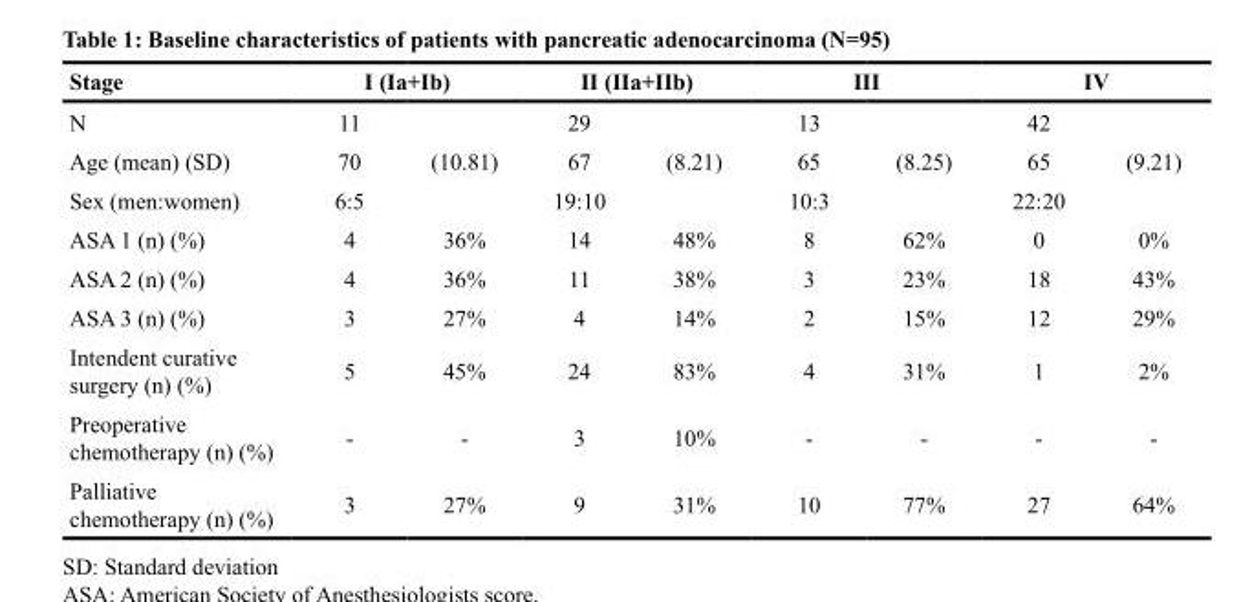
<table><thead><tr><td rowspan="2">Stage N</td><td colspan="2">I (Ia+Ib)</td><td colspan="2">II (IIa+IIb)</td><td colspan="2">III</td><td colspan="2">IV</td></tr><tr><td>11</td><td></td><td>29</td><td></td><td>13</td><td></td><td>42</td><td></td></tr></thead><tbody><tr><td>Age (mean) (SD)</td><td>70</td><td>(10.81)</td><td>67</td><td>(8.21)</td><td>65</td><td>(8.25)</td><td>65</td><td>(9.21)</td></tr><tr><td>Sex (men:women)</td><td>6:5</td><td></td><td>19:10</td><td></td><td>10:3</td><td></td><td>22:20</td><td></td></tr><tr><td>ASA 1 (n) (%)</td><td>4</td><td>36%</td><td>14</td><td>48%</td><td>8</td><td>62%</td><td>0</td><td>0%</td></tr><tr><td>ASA 2 (n) (%)</td><td>4</td><td>36%</td><td>11</td><td>38%</td><td>3</td><td>23%</td><td>18</td><td>43%</td></tr><tr><td>ASA 3 (n) (%)</td><td>3</td><td>27%</td><td>4</td><td>14%</td><td>2</td><td>15%</td><td>12</td><td>29%</td></tr><tr><td>Intendent curative surgery (n) (%)</td><td>5</td><td>45%</td><td>24</td><td>83%</td><td>4</td><td>31%</td><td>1</td><td>2%</td></tr><tr><td>Preoperative chemotherapy (n) (%)</td><td>-</td><td>-</td><td>3</td><td>10%</td><td>-</td><td>-</td><td>-</td><td>-</td></tr><tr><td>Palliative chemotherapy (n) (%)</td><td>3</td><td>27%</td><td>9</td><td>31%</td><td>10</td><td>77%</td><td>27</td><td>64%</td></tr></tbody></table>